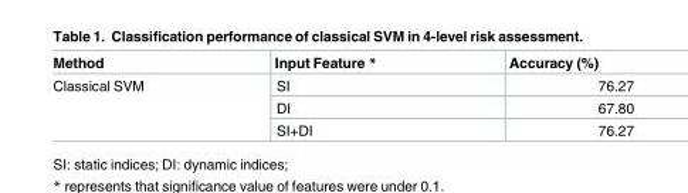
<table><thead><tr><td>Method</td><td>Input Feature *</td><td>Accuracy (%)</td></tr></thead><tbody><tr><td rowspan="3">Classical SVM</td><td>SI</td><td>76.27</td></tr><tr><td>DI</td><td>67.80</td></tr><tr><td>SI+DI</td><td>76.27</td></tr></tbody></table>